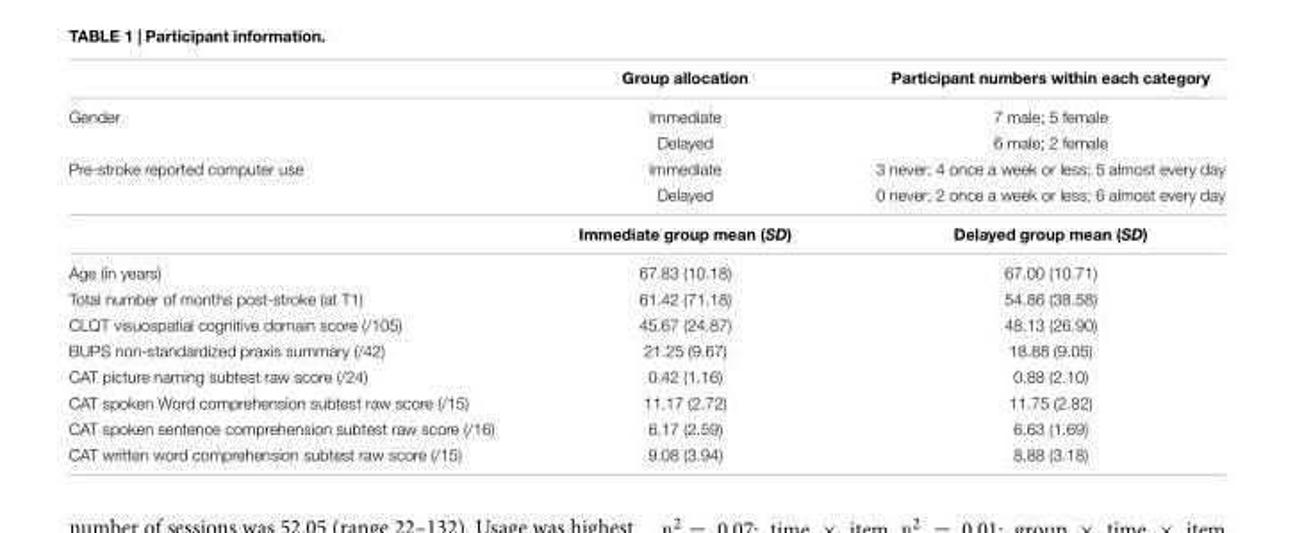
<table><thead><tr><td></td><td>Group allocation</td><td>Participant numbers within each category</td></tr></thead><tbody><tr><td rowspan="2">Gender</td><td>Immediate</td><td>7 male; 5 female</td></tr><tr><td>Delayed</td><td>6 male; 2 female</td></tr><tr><td rowspan="3">Pre-stroke reported computer use</td><td>Immediate</td><td>3 never; 4 once a week or less; 5 almost every day</td></tr><tr><td>Delayed</td><td>0 never; 2 once a week or less; 6 almost every day</td></tr><tr><td>Immediate group mean (SD)</td><td>Delayed group mean (SD)</td></tr><tr><td>Age (in years)</td><td>67.83 (10.18)</td><td>67.00 (10.71)</td></tr><tr><td>Total number of months post-stroke (at T1)</td><td>61.42 (71.18)</td><td>54.86 (38.58)</td></tr><tr><td>CLQT visuospatial cognitive domain score (/105)</td><td>45.67 (24.87)</td><td>48.13 (26.90)</td></tr><tr><td>BUPS non-standardized praxis summary (/42)</td><td>21.25 (9.67)</td><td>18.88 (9.05)</td></tr><tr><td>CAT picture naming subtest raw score (/24)</td><td>0.42 (1.16)</td><td>0.88 (2.10)</td></tr><tr><td>CAT spoken Word comprehension subtest raw score (/15)</td><td>11.17 (2.72)</td><td>11.75 (2.82)</td></tr><tr><td>CAT spoken sentence comprehension subtest raw score (/16)</td><td>6.17 (2.59)</td><td>6.63 (1.69)</td></tr><tr><td>CAT written word comprehension subtest raw score (/15)</td><td>9.08 (3.94)</td><td>8.88 (3.18)</td></tr></tbody></table>